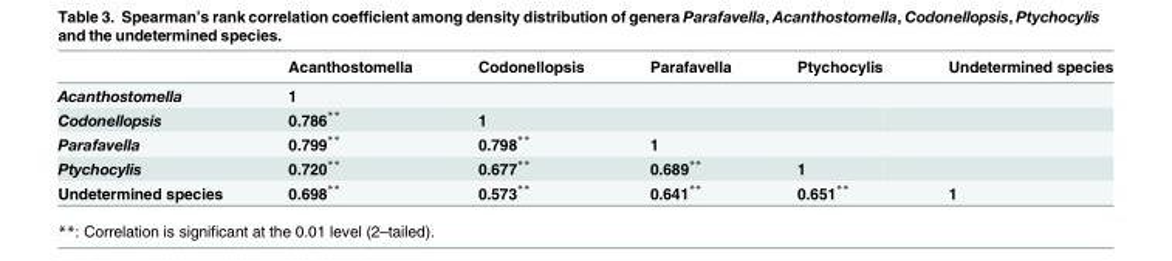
<table><thead><tr><td></td><td>Acanthostomella</td><td>Codonellopsis</td><td>Parafavella</td><td>Ptychocylis</td><td>Undetermined species</td></tr></thead><tbody><tr><td>Acanthostomella</td><td>1</td><td></td><td></td><td></td><td></td></tr><tr><td>Codonellopsis</td><td>0.786**</td><td>1</td><td></td><td></td><td></td></tr><tr><td>Parafavella</td><td>0.799**</td><td>0.798**</td><td>1</td><td></td><td></td></tr><tr><td>Ptychocylis</td><td>0.720**</td><td>0.677**</td><td>0.689**</td><td>1</td><td></td></tr><tr><td>Undetermined species</td><td>0.698**</td><td>0.573**</td><td>0.641**</td><td>0.651**</td><td>1</td></tr></tbody></table>